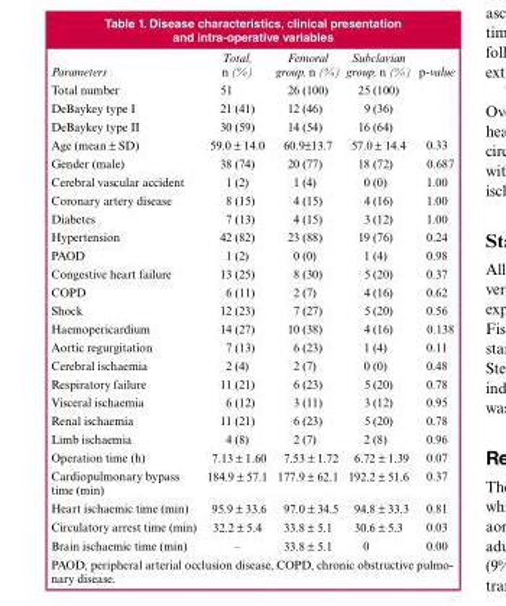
<table><thead><tr><td>Parameters</td><td>Total, n (%)</td><td>Femoral group, n (%)</td><td>Subclavian group, n (%)</td><td>p-value</td></tr></thead><tbody><tr><td>Total number</td><td>51</td><td>26 (100)</td><td>25 (100)</td><td></td></tr><tr><td>DeBaykey type I</td><td>21 (41)</td><td>12 (46)</td><td>9 (36)</td><td></td></tr><tr><td>DeBaykey type II</td><td>30 (59)</td><td>14 (54)</td><td>16 (64)</td><td></td></tr><tr><td>Age (mean ± SD)</td><td>59.0 ± 14.0</td><td>60.9±13.7</td><td>57.0 ± 14.4</td><td>0.33</td></tr><tr><td>Gender (male)</td><td>38 (74)</td><td>20 (77)</td><td>18 (72)</td><td>0.687</td></tr><tr><td>Cerebral vascular accident</td><td>1 (2)</td><td>1 (4)</td><td>0 (0)</td><td>1.00</td></tr><tr><td>Coronary artery disease</td><td>8 (15)</td><td>4 (15)</td><td>4 (16)</td><td>1.00</td></tr><tr><td>Diabetes</td><td>7 (13)</td><td>4 (15)</td><td>3 (12)</td><td>1.00</td></tr><tr><td>Hypertension</td><td>42 (82)</td><td>23 (88)</td><td>19 (76)</td><td>0.24</td></tr><tr><td>PAOD</td><td>1 (2)</td><td>0 (0)</td><td>1 (4)</td><td>0.98</td></tr><tr><td>Congestive heart failure</td><td>13 (25)</td><td>8 (30)</td><td>5 (20)</td><td>0.37</td></tr><tr><td>COPD</td><td>6 (11)</td><td>2 (7)</td><td>4 (16)</td><td>0.62</td></tr><tr><td>Shock</td><td>12 (23)</td><td>7 (27)</td><td>5 (20)</td><td>0.56</td></tr><tr><td>Haemopericardium</td><td>14 (27)</td><td>10 (38)</td><td>4 (16)</td><td>0.138</td></tr><tr><td>Aortic regurgitation</td><td>7 (13)</td><td>6 (23)</td><td>1 (4)</td><td>0.11</td></tr><tr><td>Cerebral ischaemia</td><td>2 (4)</td><td>2 (7)</td><td>0 (0)</td><td>0.48</td></tr><tr><td>Respiratory failure</td><td>11 (21)</td><td>6 (23)</td><td>5 (20)</td><td>0.78</td></tr><tr><td>Visceral ischaemia</td><td>6 (12)</td><td>3 (11)</td><td>3 (12)</td><td>0.95</td></tr><tr><td>Renal ischaemia</td><td>11 (21)</td><td>6 (23)</td><td>5 (20)</td><td>0.78</td></tr><tr><td>Limb ischaemia</td><td>4 (8)</td><td>2 (7)</td><td>2 (8)</td><td>0.96</td></tr><tr><td>Operation time (h)</td><td>7.13 ± 1.60</td><td>7.53 ± 1.72</td><td>6.72 ± 1.39</td><td>0.07</td></tr><tr><td>Cardiopulmonary bypass time (min)</td><td>184.9 ± 57.1</td><td>177.9 ± 62.1</td><td>192.2 ± 51.6</td><td>0.37</td></tr><tr><td>Heart ischaemic time (min)</td><td>95.9 ± 33.6</td><td>97.0 ± 34.5</td><td>94.8 ± 33.3</td><td>0.81</td></tr><tr><td>Circulatory arrest time (min)</td><td>32.2 ± 5.4</td><td>33.8 ± 5.1</td><td>30.6 ± 5.3</td><td>0.03</td></tr><tr><td>Brain ischaemic time (min)</td><td>–</td><td>33.8 ± 5.1</td><td>0</td><td>0.00</td></tr></tbody></table>